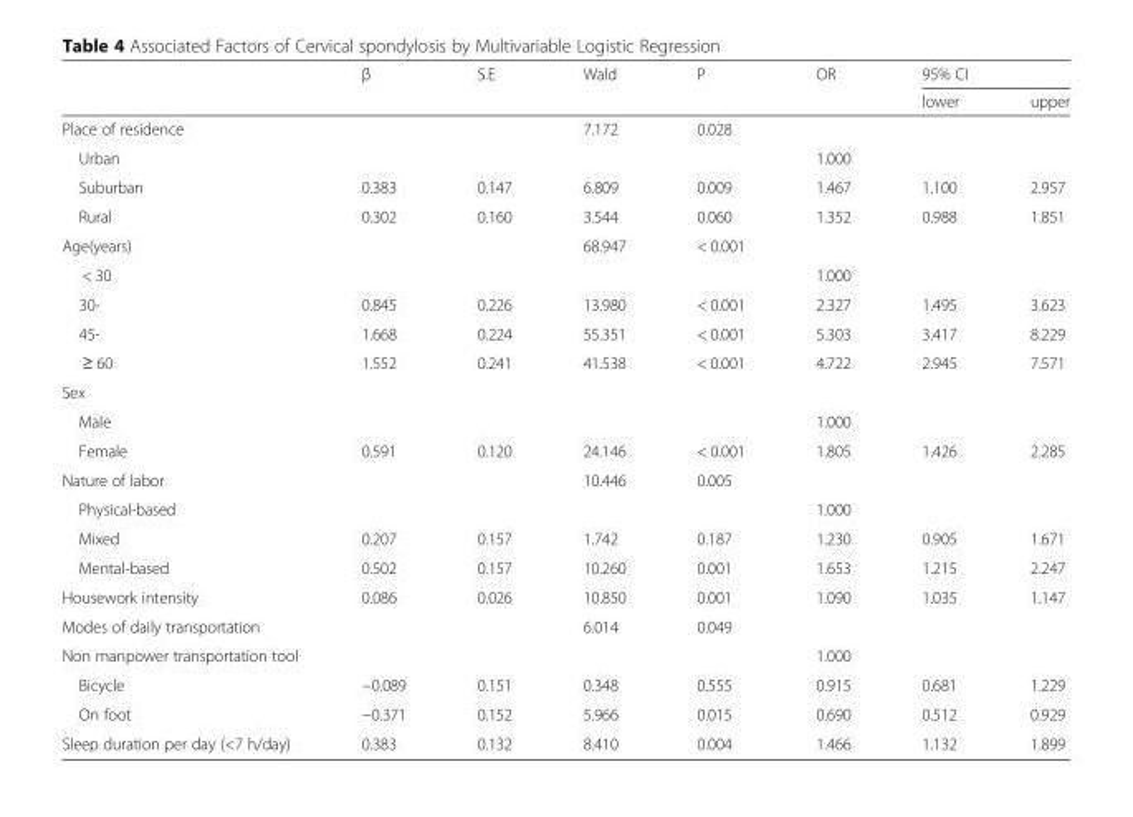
<table><thead><tr><td rowspan="2"></td><td rowspan="2">β</td><td rowspan="2">S.E</td><td rowspan="2">Wald</td><td rowspan="2">P</td><td rowspan="2">OR</td><td colspan="2">95% CI</td></tr><tr><td>lower</td><td>upper</td></tr></thead><tbody><tr><td colspan="2">Place of residence</td><td></td><td>7.172</td><td>0.028</td><td></td><td></td><td></td></tr><tr><td>Urban</td><td></td><td></td><td></td><td></td><td>1.000</td><td></td><td></td></tr><tr><td>Suburban</td><td>0.383</td><td>0.147</td><td>6.809</td><td>0.009</td><td>1.467</td><td>1.100</td><td>2.957</td></tr><tr><td>Rural</td><td>0.302</td><td>0.160</td><td>3.544</td><td>0.060</td><td>1.352</td><td>0.988</td><td>1.851</td></tr><tr><td>Age(years)</td><td></td><td></td><td>68.947</td><td>&lt; 0.001</td><td></td><td></td><td></td></tr><tr><td>&lt; 30</td><td></td><td></td><td></td><td></td><td>1.000</td><td></td><td></td></tr><tr><td>30-</td><td>0.845</td><td>0.226</td><td>13.980</td><td>&lt; 0.001</td><td>2.327</td><td>1.495</td><td>3.623</td></tr><tr><td>45-</td><td>1.668</td><td>0.224</td><td>55.351</td><td>&lt; 0.001</td><td>5.303</td><td>3.417</td><td>8.229</td></tr><tr><td>≥ 60</td><td>1.552</td><td>0.241</td><td>41.538</td><td>&lt; 0.001</td><td>4.722</td><td>2.945</td><td>7.571</td></tr><tr><td colspan="8">Sex</td></tr><tr><td>Male</td><td></td><td></td><td></td><td></td><td>1.000</td><td></td><td></td></tr><tr><td>Female</td><td>0.591</td><td>0.120</td><td>24.146</td><td>&lt; 0.001</td><td>1.805</td><td>1.426</td><td>2.285</td></tr><tr><td>Nature of labor</td><td></td><td></td><td>10.446</td><td>0.005</td><td></td><td></td><td></td></tr><tr><td>Physical-based</td><td></td><td></td><td></td><td></td><td>1.000</td><td></td><td></td></tr><tr><td>Mixed</td><td>0.207</td><td>0.157</td><td>1.742</td><td>0.187</td><td>1.230</td><td>0.905</td><td>1.671</td></tr><tr><td>Mental-based</td><td>0.502</td><td>0.157</td><td>10.260</td><td>0.001</td><td>1.653</td><td>1.215</td><td>2.247</td></tr><tr><td>Housework intensity</td><td>0.086</td><td>0.026</td><td>10.850</td><td>0.001</td><td>1.090</td><td>1.035</td><td>1.147</td></tr><tr><td colspan="3">Modes of daily transportation</td><td>6.014</td><td>0.049</td><td></td><td></td><td></td></tr><tr><td colspan="3">Non manpower transportation tool</td><td></td><td></td><td>1.000</td><td></td><td></td></tr><tr><td>Bicycle</td><td>−0.089</td><td>0.151</td><td>0.348</td><td>0.555</td><td>0.915</td><td>0.681</td><td>1.229</td></tr><tr><td>On foot</td><td>−0.371</td><td>0.152</td><td>5.966</td><td>0.015</td><td>0.690</td><td>0.512</td><td>0.929</td></tr><tr><td>Sleep duration per day (&lt;7 h/day)</td><td>0.383</td><td>0.132</td><td>8.410</td><td>0.004</td><td>1.466</td><td>1.132</td><td>1.899</td></tr></tbody></table>